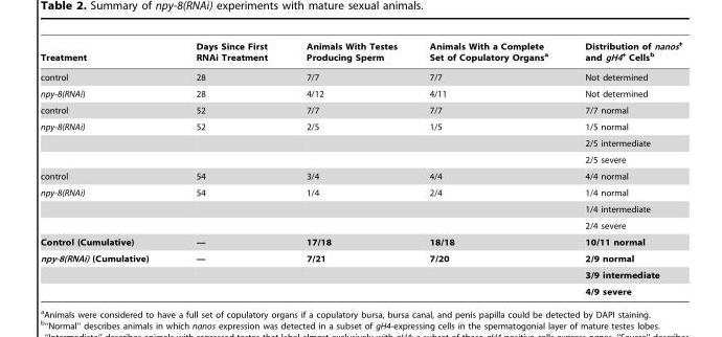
<table><thead><tr><td>Treatment</td><td>Days Since First RNAi Treatment</td><td>Animals With Testes Producing Sperm</td><td>Animals With a Complete Set of Copulatory Organs<sup>a</sup></td><td>Distribution of nanos<sup>+</sup> and gH4<sup>+</sup> Cells<sup>b</sup></td></tr></thead><tbody><tr><td>control</td><td>28</td><td>7/7</td><td>7/7</td><td>Not determined</td></tr><tr><td>npy-8(RNAi)</td><td>28</td><td>4/12</td><td>4/11</td><td>Not determined</td></tr><tr><td>control</td><td>52</td><td>7/7</td><td>7/7</td><td>7/7 normal</td></tr><tr><td rowspan="3">npy-8(RNAi)</td><td>52</td><td>2/5</td><td>1/5</td><td>1/5 normal</td></tr><tr><td></td><td></td><td></td><td>2/5 intermediate</td></tr><tr><td></td><td></td><td></td><td>2/5 severe</td></tr><tr><td>control</td><td>54</td><td>3/4</td><td>4/4</td><td>4/4 normal</td></tr><tr><td rowspan="3">npy-8(RNAi)</td><td>54</td><td>1/4</td><td>2/4</td><td>1/4 normal</td></tr><tr><td></td><td></td><td></td><td>1/4 intermediate</td></tr><tr><td></td><td></td><td></td><td>2/4 severe</td></tr><tr><td>Control (Cumulative)</td><td>—</td><td>17/18</td><td>18/18</td><td>10/11 normal</td></tr><tr><td rowspan="3">npy-8(RNAi) (Cumulative)</td><td>—</td><td>7/21</td><td>7/20</td><td>2/9 normal</td></tr><tr><td></td><td></td><td></td><td>3/9 intermediate</td></tr><tr><td></td><td></td><td></td><td>4/9 severe</td></tr></tbody></table>